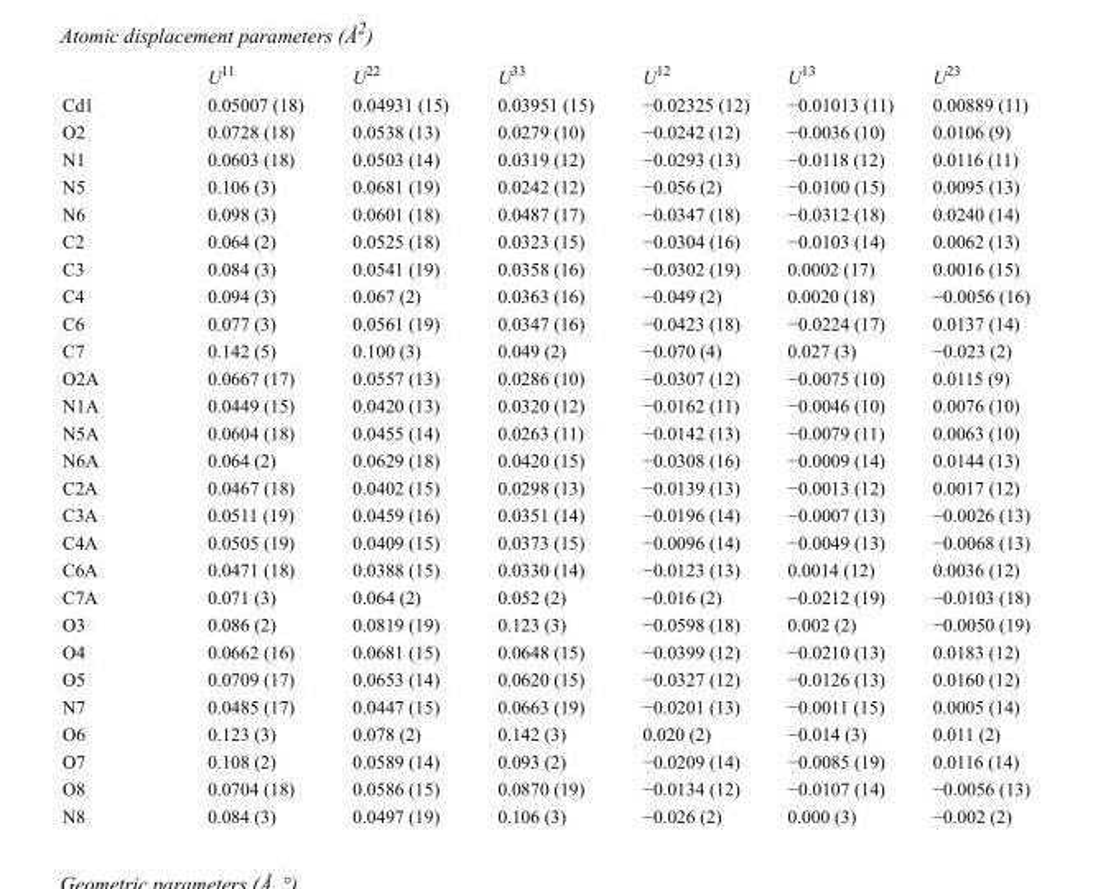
<table><thead><tr><td></td><td>U<sup>11</sup></td><td>U<sup>22</sup></td><td>U<sup>33</sup></td><td>U<sup>12</sup></td><td>U<sup>13</sup></td><td>U<sup>23</sup></td></tr></thead><tbody><tr><td>Cd1</td><td>0.05007 (18)</td><td>0.04931 (15)</td><td>0.03951 (15)</td><td>−0.02325 (12)</td><td>−0.01013 (11)</td><td>0.00889 (11)</td></tr><tr><td>O2</td><td>0.0728 (18)</td><td>0.0538 (13)</td><td>0.0279 (10)</td><td>−0.0242 (12)</td><td>−0.0036 (10)</td><td>0.0106 (9)</td></tr><tr><td>N1</td><td>0.0603 (18)</td><td>0.0503 (14)</td><td>0.0319 (12)</td><td>−0.0293 (13)</td><td>−0.0118 (12)</td><td>0.0116 (11)</td></tr><tr><td>N5</td><td>0.106 (3)</td><td>0.0681 (19)</td><td>0.0242 (12)</td><td>−0.056 (2)</td><td>−0.0100 (15)</td><td>0.0095 (13)</td></tr><tr><td>N6</td><td>0.098 (3)</td><td>0.0601 (18)</td><td>0.0487 (17)</td><td>−0.0347 (18)</td><td>−0.0312 (18)</td><td>0.0240 (14)</td></tr><tr><td>C2</td><td>0.064 (2)</td><td>0.0525 (18)</td><td>0.0323 (15)</td><td>−0.0304 (16)</td><td>−0.0103 (14)</td><td>0.0062 (13)</td></tr><tr><td>C3</td><td>0.084 (3)</td><td>0.0541 (19)</td><td>0.0358 (16)</td><td>−0.0302 (19)</td><td>0.0002 (17)</td><td>0.0016 (15)</td></tr><tr><td>C4</td><td>0.094 (3)</td><td>0.067 (2)</td><td>0.0363 (16)</td><td>−0.049 (2)</td><td>0.0020 (18)</td><td>−0.0056 (16)</td></tr><tr><td>C6</td><td>0.077 (3)</td><td>0.0561 (19)</td><td>0.0347 (16)</td><td>−0.0423 (18)</td><td>−0.0224 (17)</td><td>0.0137 (14)</td></tr><tr><td>C7</td><td>0.142 (5)</td><td>0.100 (3)</td><td>0.049 (2)</td><td>−0.070 (4)</td><td>0.027 (3)</td><td>−0.023 (2)</td></tr><tr><td>O2A</td><td>0.0667 (17)</td><td>0.0557 (13)</td><td>0.0286 (10)</td><td>−0.0307 (12)</td><td>−0.0075 (10)</td><td>0.0115 (9)</td></tr><tr><td>N1A</td><td>0.0449 (15)</td><td>0.0420 (13)</td><td>0.0320 (12)</td><td>−0.0162 (11)</td><td>−0.0046 (10)</td><td>0.0076 (10)</td></tr><tr><td>N5A</td><td>0.0604 (18)</td><td>0.0455 (14)</td><td>0.0263 (11)</td><td>−0.0142 (13)</td><td>−0.0079 (11)</td><td>0.0063 (10)</td></tr><tr><td>N6A</td><td>0.064 (2)</td><td>0.0629 (18)</td><td>0.0420 (15)</td><td>−0.0308 (16)</td><td>−0.0009 (14)</td><td>0.0144 (13)</td></tr><tr><td>C2A</td><td>0.0467 (18)</td><td>0.0402 (15)</td><td>0.0298 (13)</td><td>−0.0139 (13)</td><td>−0.0013 (12)</td><td>0.0017 (12)</td></tr><tr><td>C3A</td><td>0.0511 (19)</td><td>0.0459 (16)</td><td>0.0351 (14)</td><td>−0.0196 (14)</td><td>−0.0007 (13)</td><td>−0.0026 (13)</td></tr><tr><td>C4A</td><td>0.0505 (19)</td><td>0.0409 (15)</td><td>0.0373 (15)</td><td>−0.0096 (14)</td><td>−0.0049 (13)</td><td>−0.0068 (13)</td></tr><tr><td>C6A</td><td>0.0471 (18)</td><td>0.0388 (15)</td><td>0.0330 (14)</td><td>−0.0123 (13)</td><td>0.0014 (12)</td><td>0.0036 (12)</td></tr><tr><td>C7A</td><td>0.071 (3)</td><td>0.064 (2)</td><td>0.052 (2)</td><td>−0.016 (2)</td><td>−0.0212 (19)</td><td>−0.0103 (18)</td></tr><tr><td>O3</td><td>0.086 (2)</td><td>0.0819 (19)</td><td>0.123 (3)</td><td>−0.0598 (18)</td><td>0.002 (2)</td><td>−0.0050 (19)</td></tr><tr><td>O4</td><td>0.0662 (16)</td><td>0.0681 (15)</td><td>0.0648 (15)</td><td>−0.0399 (12)</td><td>−0.0210 (13)</td><td>0.0183 (12)</td></tr><tr><td>O5</td><td>0.0709 (17)</td><td>0.0653 (14)</td><td>0.0620 (15)</td><td>−0.0327 (12)</td><td>−0.0126 (13)</td><td>0.0160 (12)</td></tr><tr><td>N7</td><td>0.0485 (17)</td><td>0.0447 (15)</td><td>0.0663 (19)</td><td>−0.0201 (13)</td><td>−0.0011 (15)</td><td>0.0005 (14)</td></tr><tr><td>O6</td><td>0.123 (3)</td><td>0.078 (2)</td><td>0.142 (3)</td><td>0.020 (2)</td><td>−0.014 (3)</td><td>0.011 (2)</td></tr><tr><td>O7</td><td>0.108 (2)</td><td>0.0589 (14)</td><td>0.093 (2)</td><td>−0.0209 (14)</td><td>−0.0085 (19)</td><td>0.0116 (14)</td></tr><tr><td>O8</td><td>0.0704 (18)</td><td>0.0586 (15)</td><td>0.0870 (19)</td><td>−0.0134 (12)</td><td>−0.0107 (14)</td><td>−0.0056 (13)</td></tr><tr><td>N8</td><td>0.084 (3)</td><td>0.0497 (19)</td><td>0.106 (3)</td><td>−0.026 (2)</td><td>0.000 (3)</td><td>−0.002 (2)</td></tr></tbody></table>